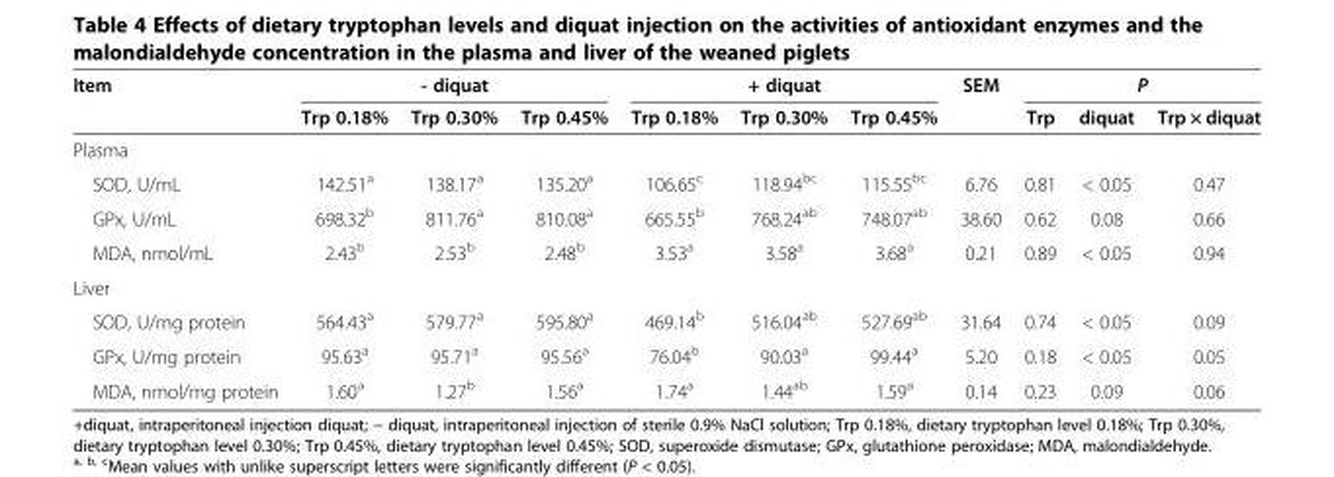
<table><thead><tr><td rowspan="2">Item</td><td colspan="3">- diquat</td><td colspan="3">+ diquat</td><td rowspan="2">SEM</td><td colspan="3">P</td></tr><tr><td>Trp 0.18%</td><td>Trp 0.30%</td><td>Trp 0.45%</td><td>Trp 0.18%</td><td>Trp 0.30%</td><td>Trp 0.45%</td><td>Trp</td><td>diquat</td><td>Trp × diquat</td></tr></thead><tbody><tr><td colspan="11">Plasma</td></tr><tr><td>SOD, U/mL</td><td>142.51<sup>a</sup></td><td>138.17<sup>a</sup></td><td>135.20<sup>a</sup></td><td>106.65<sup>c</sup></td><td>118.94<sup>bc</sup></td><td>115.55<sup>bc</sup></td><td>6.76</td><td>0.81</td><td>&lt; 0.05</td><td>0.47</td></tr><tr><td>GPx, U/mL</td><td>698.32<sup>b</sup></td><td>811.76<sup>a</sup></td><td>810.08<sup>a</sup></td><td>665.55<sup>b</sup></td><td>768.24<sup>ab</sup></td><td>748.07<sup>ab</sup></td><td>38.60</td><td>0.62</td><td>0.08</td><td>0.66</td></tr><tr><td>MDA, nmol/mL</td><td>2.43<sup>b</sup></td><td>2.53<sup>b</sup></td><td>2.48<sup>b</sup></td><td>3.53<sup>a</sup></td><td>3.58<sup>a</sup></td><td>3.68<sup>a</sup></td><td>0.21</td><td>0.89</td><td>&lt; 0.05</td><td>0.94</td></tr><tr><td colspan="11">Liver</td></tr><tr><td>SOD, U/mg protein</td><td>564.43<sup>a</sup></td><td>579.77<sup>a</sup></td><td>595.80<sup>a</sup></td><td>469.14<sup>b</sup></td><td>516.04<sup>ab</sup></td><td>527.69<sup>ab</sup></td><td>31.64</td><td>0.74</td><td>&lt; 0.05</td><td>0.09</td></tr><tr><td>GPx, U/mg protein</td><td>95.63<sup>a</sup></td><td>95.71<sup>a</sup></td><td>95.56<sup>a</sup></td><td>76.04<sup>b</sup></td><td>90.03<sup>a</sup></td><td>99.44<sup>a</sup></td><td>5.20</td><td>0.18</td><td>&lt; 0.05</td><td>0.05</td></tr><tr><td>MDA, nmol/mg protein</td><td>1.60<sup>a</sup></td><td>1.27<sup>b</sup></td><td>1.56<sup>a</sup></td><td>1.74<sup>a</sup></td><td>1.44<sup>ab</sup></td><td>1.59<sup>a</sup></td><td>0.14</td><td>0.23</td><td>0.09</td><td>0.06</td></tr></tbody></table>